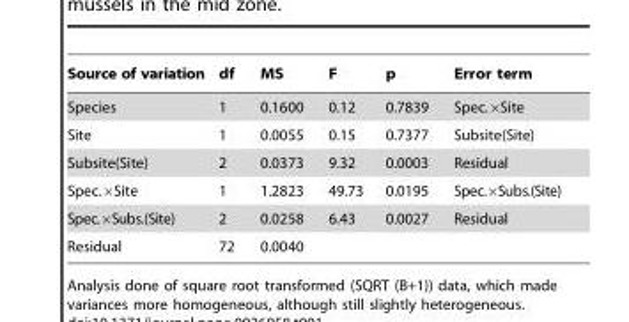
<table><thead><tr><td>Source of variation</td><td>df</td><td>MS</td><td>F</td><td>p</td><td>Error term</td></tr></thead><tbody><tr><td>Species</td><td>1</td><td>0.1600</td><td>0.12</td><td>0.7839</td><td>Spec.×Site</td></tr><tr><td>Site</td><td>1</td><td>0.0055</td><td>0.15</td><td>0.7377</td><td>Subsite(Site)</td></tr><tr><td>Subsite(Site)</td><td>2</td><td>0.0373</td><td>9.32</td><td>0.0003</td><td>Residual</td></tr><tr><td>Spec.×Site</td><td>1</td><td>1.2823</td><td>49.73</td><td>0.0195</td><td>Spec.×Subs.(Site)</td></tr><tr><td>Spec.×Subs.(Site)</td><td>2</td><td>0.0258</td><td>6.43</td><td>0.0027</td><td>Residual</td></tr><tr><td>Residual</td><td>72</td><td>0.0040</td><td></td><td></td><td></td></tr></tbody></table>